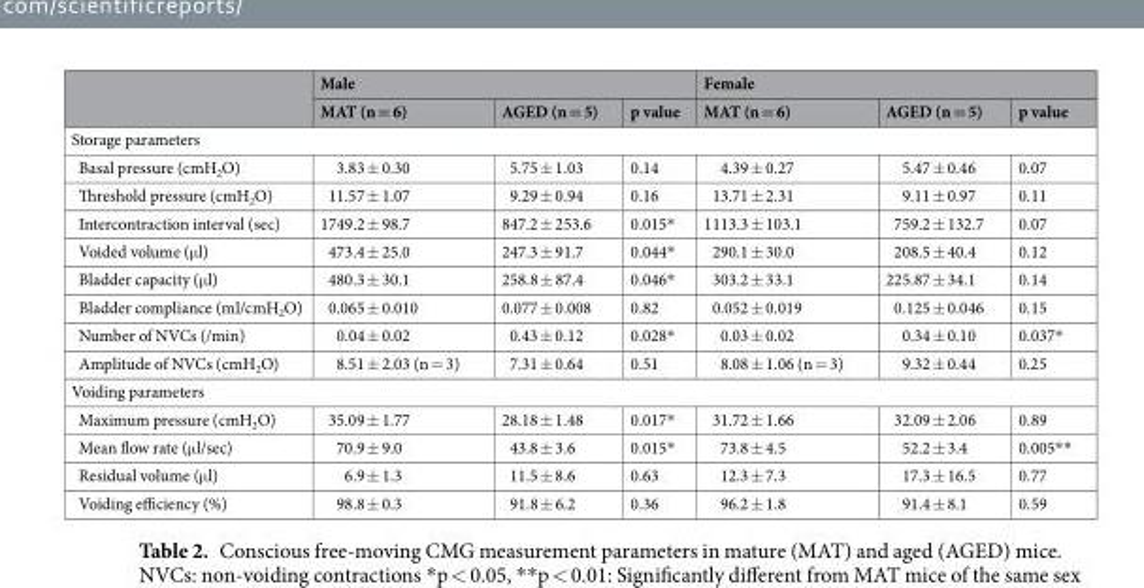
<table><thead><tr><td rowspan="2"></td><td colspan="3">Male</td><td colspan="3">Female</td></tr><tr><td>MAT (n = 6)</td><td>AGED (n = 5)</td><td>p value</td><td>MAT (n = 6)</td><td>AGED (n = 5)</td><td>p value</td></tr></thead><tbody><tr><td colspan="7">Storage parameters</td></tr><tr><td>Basal pressure (cmH<sub>2</sub>O)</td><td>3.83 ± 0.30</td><td>5.75 ± 1.03</td><td>0.14</td><td>4.39 ± 0.27</td><td>5.47 ± 0.46</td><td>0.07</td></tr><tr><td>Threshold pressure (cmH<sub>2</sub>O)</td><td>11.57 ± 1.07</td><td>9.29 ± 0.94</td><td>0.16</td><td>13.71 ± 2.31</td><td>9.11 ± 0.97</td><td>0.11</td></tr><tr><td>Intercontraction interval (sec)</td><td>1749.2 ± 98.7</td><td>847.2 ± 253.6</td><td>0.015*</td><td>1113.3 ± 103.1</td><td>759.2 ± 132.7</td><td>0.07</td></tr><tr><td>Voided volume (μl)</td><td>473.4 ± 25.0</td><td>247.3 ± 91.7</td><td>0.044*</td><td>290.1 ± 30.0</td><td>208.5 ± 40.4</td><td>0.12</td></tr><tr><td>Bladder capacity (μl)</td><td>480.3 ± 30.1</td><td>258.8 ± 87.4</td><td>0.046*</td><td>303.2 ± 33.1</td><td>225.87 ± 34.1</td><td>0.14</td></tr><tr><td>Bladder compliance (ml/cmH<sub>2</sub>O)</td><td>0.065 ± 0.010</td><td>0.077 ± 0.008</td><td>0.82</td><td>0.052 ± 0.019</td><td>0.125 ± 0.046</td><td>0.15</td></tr><tr><td>Number of NVCs (/min)</td><td>0.04 ± 0.02</td><td>0.43 ± 0.12</td><td>0.028*</td><td>0.03 ± 0.02</td><td>0.34 ± 0.10</td><td>0.037*</td></tr><tr><td>Amplitude of NVCs (cmH<sub>2</sub>O)</td><td>8.51 ± 2.03 (n = 3)</td><td>7.31 ± 0.64</td><td>0.51</td><td>8.08 ± 1.06 (n = 3)</td><td>9.32 ± 0.44</td><td>0.25</td></tr><tr><td colspan="7">Voiding parameters</td></tr><tr><td>Maximum pressure (cmH<sub>2</sub>O)</td><td>35.09 ± 1.77</td><td>28.18 ± 1.48</td><td>0.017*</td><td>31.72 ± 1.66</td><td>32.09 ± 2.06</td><td>0.89</td></tr><tr><td>Mean flow rate (μl/sec)</td><td>70.9 ± 9.0</td><td>43.8 ± 3.6</td><td>0.015*</td><td>73.8 ± 4.5</td><td>52.2 ± 3.4</td><td>0.005**</td></tr><tr><td>Residual volume (μl)</td><td>6.9 ± 1.3</td><td>11.5 ± 8.6</td><td>0.63</td><td>12.3 ± 7.3</td><td>17.3 ± 16.5</td><td>0.77</td></tr><tr><td>Voiding efficiency (%)</td><td>98.8 ± 0.3</td><td>91.8 ± 6.2</td><td>0.36</td><td>96.2 ± 1.8</td><td>91.4 ± 8.1</td><td>0.59</td></tr></tbody></table>